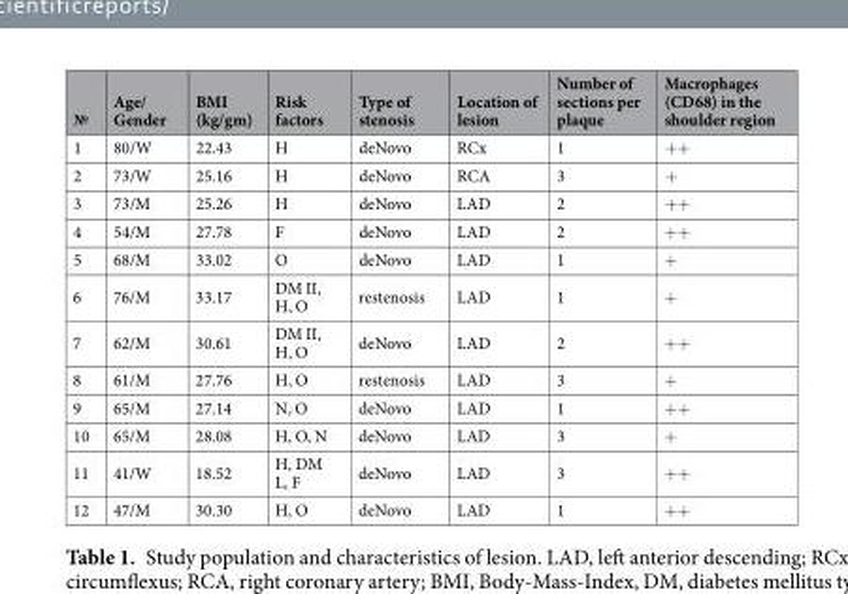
<table><thead><tr><td>№</td><td>Age/ Gender</td><td>BMI (kg/gm)</td><td>Risk factors</td><td>Type of stenosis</td><td>Location of lesion</td><td>Number of sections per plaque</td><td>Macrophages (CD68) in the shoulder region</td></tr></thead><tbody><tr><td>1</td><td>80/W</td><td>22.43</td><td>H</td><td>deNovo</td><td>RCx</td><td>1</td><td>++</td></tr><tr><td>2</td><td>73/W</td><td>25.16</td><td>H</td><td>deNovo</td><td>RCA</td><td>3</td><td>+</td></tr><tr><td>3</td><td>73/M</td><td>25.26</td><td>H</td><td>deNovo</td><td>LAD</td><td>2</td><td>++</td></tr><tr><td>4</td><td>54/M</td><td>27.78</td><td>F</td><td>deNovo</td><td>LAD</td><td>2</td><td>++</td></tr><tr><td>5</td><td>68/M</td><td>33.02</td><td>O</td><td>deNovo</td><td>LAD</td><td>1</td><td>+</td></tr><tr><td>6</td><td>76/M</td><td>33.17</td><td>DM II, H, O</td><td>restenosis</td><td>LAD</td><td>1</td><td>+</td></tr><tr><td>7</td><td>62/M</td><td>30.61</td><td>DM II, H, O</td><td>deNovo</td><td>LAD</td><td>2</td><td>++</td></tr><tr><td>8</td><td>61/M</td><td>27.76</td><td>H, O</td><td>restenosis</td><td>LAD</td><td>3</td><td>+</td></tr><tr><td>9</td><td>65/M</td><td>27.14</td><td>N, O</td><td>deNovo</td><td>LAD</td><td>1</td><td>++</td></tr><tr><td>10</td><td>65/M</td><td>28.08</td><td>H, O, N</td><td>deNovo</td><td>LAD</td><td>3</td><td>+</td></tr><tr><td>11</td><td>41/W</td><td>18.52</td><td>H, DM L, F</td><td>deNovo</td><td>LAD</td><td>3</td><td>++</td></tr><tr><td>12</td><td>47/M</td><td>30.30</td><td>H, O</td><td>deNovo</td><td>LAD</td><td>1</td><td>++</td></tr></tbody></table>